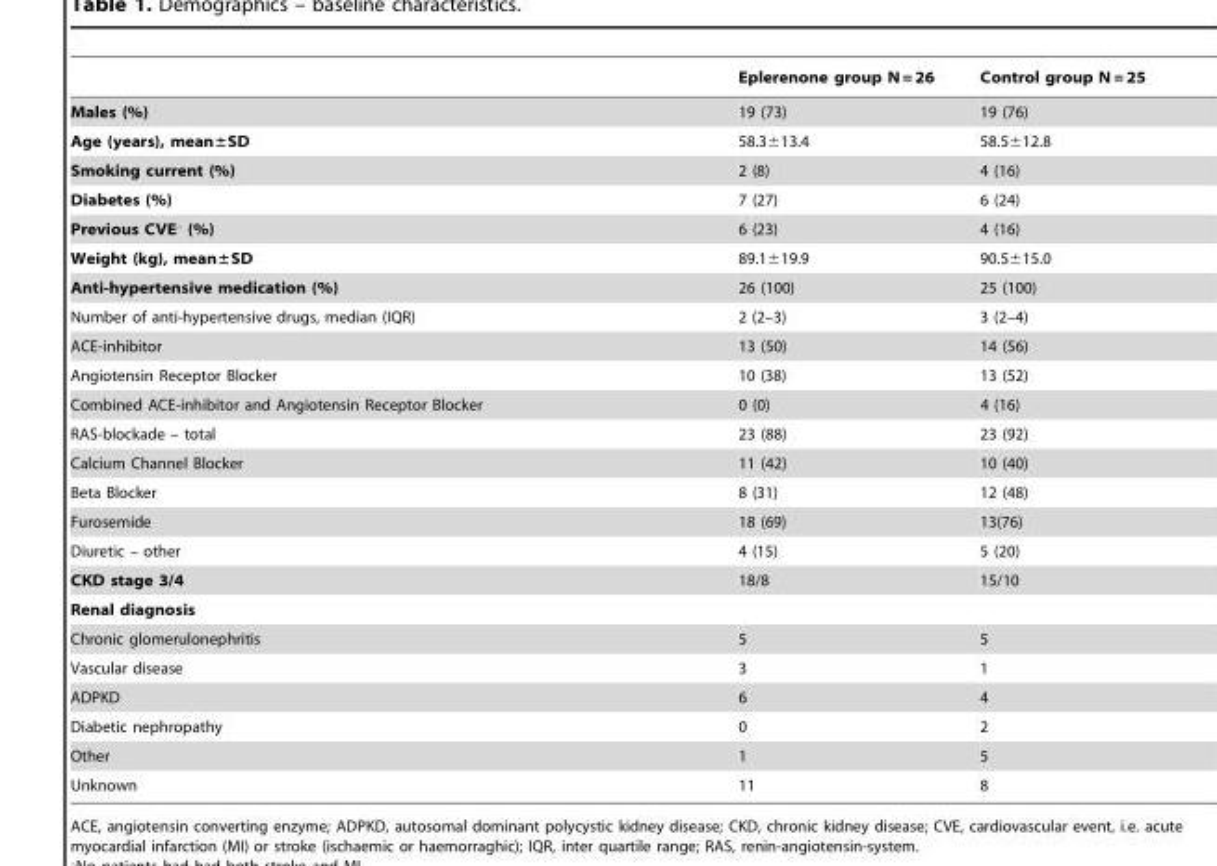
<table><thead><tr><td></td><td>Eplerenone group N = 26</td><td>Control group N = 25</td></tr></thead><tbody><tr><td>Males (%)</td><td>19 (73)</td><td>19 (76)</td></tr><tr><td>Age (years), mean±SD</td><td>58.3±13.4</td><td>58.5±12.8</td></tr><tr><td>Smoking current (%)</td><td>2 (8)</td><td>4 (16)</td></tr><tr><td>Diabetes (%)</td><td>7 (27)</td><td>6 (24)</td></tr><tr><td>Previous CVE‘ (%)</td><td>6 (23)</td><td>4 (16)</td></tr><tr><td>Weight (kg), mean±SD</td><td>89.1±19.9</td><td>90.5±15.0</td></tr><tr><td>Anti-hypertensive medication (%)</td><td>26 (100)</td><td>25 (100)</td></tr><tr><td>Number of anti-hypertensive drugs, median (IQR)</td><td>2 (2–3)</td><td>3 (2–4)</td></tr><tr><td>ACE-inhibitor</td><td>13 (50)</td><td>14 (56)</td></tr><tr><td>Angiotensin Receptor Blocker</td><td>10 (38)</td><td>13 (52)</td></tr><tr><td>Combined ACE-inhibitor and Angiotensin Receptor Blocker</td><td>0 (0)</td><td>4 (16)</td></tr><tr><td>RAS-blockade – total</td><td>23 (88)</td><td>23 (92)</td></tr><tr><td>Calcium Channel Blocker</td><td>11 (42)</td><td>10 (40)</td></tr><tr><td>Beta Blocker</td><td>8 (31)</td><td>12 (48)</td></tr><tr><td>Furosemide</td><td>18 (69)</td><td>13(76)</td></tr><tr><td>Diuretic – other</td><td>4 (15)</td><td>5 (20)</td></tr><tr><td>CKD stage 3/4</td><td>18/8</td><td>15/10</td></tr><tr><td colspan="3">Renal diagnosis</td></tr><tr><td>Chronic glomerulonephritis</td><td>5</td><td>5</td></tr><tr><td>Vascular disease</td><td>3</td><td>1</td></tr><tr><td>ADPKD</td><td>6</td><td>4</td></tr><tr><td>Diabetic nephropathy</td><td>0</td><td>2</td></tr><tr><td>Other</td><td>1</td><td>5</td></tr><tr><td>Unknown</td><td>11</td><td>8</td></tr></tbody></table>